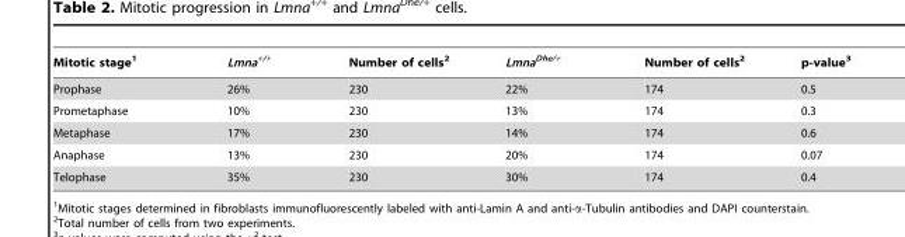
<table><thead><tr><td>Mitotic stage<sup>1</sup></td><td>Lmna<sup>+/+</sup></td><td>Number of cells<sup>2</sup></td><td>Lmna<sup>Dhe/+</sup></td><td>Number of cells<sup>2</sup></td><td>p-value<sup>3</sup></td></tr></thead><tbody><tr><td>Prophase</td><td>26%</td><td>230</td><td>22%</td><td>174</td><td>0.5</td></tr><tr><td>Prometaphase</td><td>10%</td><td>230</td><td>13%</td><td>174</td><td>0.3</td></tr><tr><td>Metaphase</td><td>17%</td><td>230</td><td>14%</td><td>174</td><td>0.6</td></tr><tr><td>Anaphase</td><td>13%</td><td>230</td><td>20%</td><td>174</td><td>0.07</td></tr><tr><td>Telophase</td><td>35%</td><td>230</td><td>30%</td><td>174</td><td>0.4</td></tr></tbody></table>